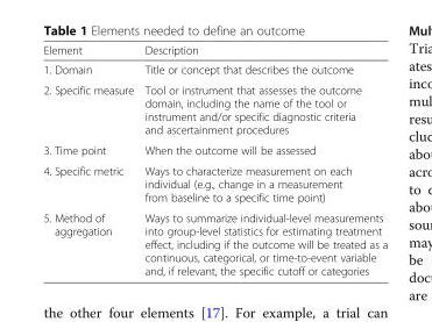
<table><thead><tr><td>Element</td><td>Description</td></tr></thead><tbody><tr><td>1. Domain</td><td>Title or concept that describes the outcome</td></tr><tr><td>2. Specific measure</td><td>Tool or instrument that assesses the outcome domain, including the name of the tool or instrument and/or specific diagnostic criteria and ascertainment procedures</td></tr><tr><td>3. Time point</td><td>When the outcome will be assessed</td></tr><tr><td>4. Specific metric</td><td>Ways to characterize measurement on each individual (e.g., change in a measurement from baseline to a specific time point)</td></tr><tr><td>5. Method of aggregation</td><td>Ways to summarize individual-level measurements into group-level statistics for estimating treatment effect, including if the outcome will be treated as a continuous, categorical, or time-to-event variable and, if relevant, the specific cutoff or categories</td></tr></tbody></table>